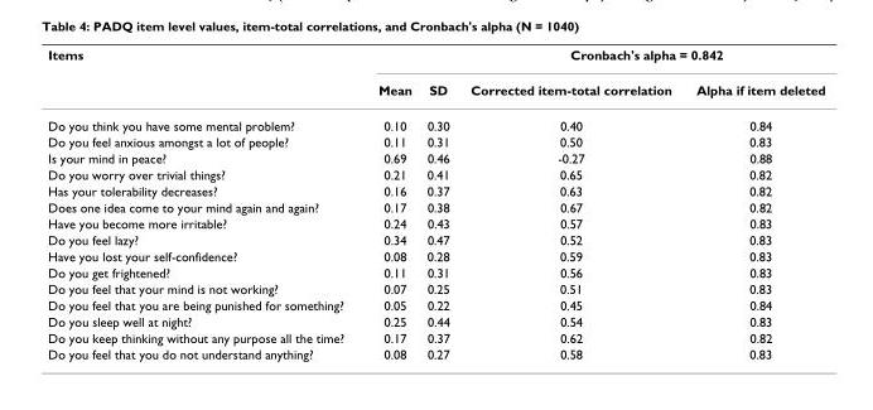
<table><thead><tr><td rowspan="2">Items</td><td rowspan="2">Mean</td><td rowspan="2">SD</td><td colspan="2">Cronbach&#x27;s alpha = 0.842</td></tr><tr><td>Corrected item-total correlation</td><td>Alpha if item deleted</td></tr></thead><tbody><tr><td>Do you think you have some mental problem?</td><td>0.10</td><td>0.30</td><td>0.40</td><td>0.84</td></tr><tr><td>Do you feel anxious amongst a lot of people?</td><td>0.11</td><td>0.31</td><td>0.50</td><td>0.83</td></tr><tr><td>Is your mind in peace?</td><td>0.69</td><td>0.46</td><td>-0.27</td><td>0.88</td></tr><tr><td>Do you worry over trivial things?</td><td>0.21</td><td>0.41</td><td>0.65</td><td>0.82</td></tr><tr><td>Has your tolerability decreases?</td><td>0.16</td><td>0.37</td><td>0.63</td><td>0.82</td></tr><tr><td>Does one idea come to your mind again and again?</td><td>0.17</td><td>0.38</td><td>0.67</td><td>0.82</td></tr><tr><td>Have you become more irritable?</td><td>0.24</td><td>0.43</td><td>0.57</td><td>0.83</td></tr><tr><td>Do you feel lazy?</td><td>0.34</td><td>0.47</td><td>0.52</td><td>0.83</td></tr><tr><td>Have you lost your self-confidence?</td><td>0.08</td><td>0.28</td><td>0.59</td><td>0.83</td></tr><tr><td>Do you get frightened?</td><td>0.11</td><td>0.31</td><td>0.56</td><td>0.83</td></tr><tr><td>Do you feel that your mind is not working?</td><td>0.07</td><td>0.25</td><td>0.51</td><td>0.83</td></tr><tr><td>Do you feel that you are being punished for something?</td><td>0.05</td><td>0.22</td><td>0.45</td><td>0.84</td></tr><tr><td>Do you sleep well at night?</td><td>0.25</td><td>0.44</td><td>0.54</td><td>0.83</td></tr><tr><td>Do you keep thinking without any purpose all the time?</td><td>0.17</td><td>0.37</td><td>0.62</td><td>0.82</td></tr><tr><td>Do you feel that you do not understand anything?</td><td>0.08</td><td>0.27</td><td>0.58</td><td>0.83</td></tr></tbody></table>